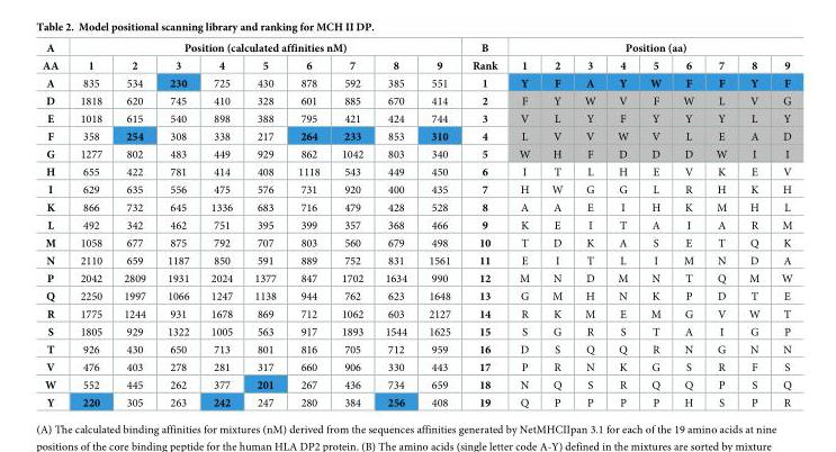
<table><thead><tr><td rowspan="2">A AA</td><td colspan="9">Position (calculated affinities nM)</td><td rowspan="2">B Rank</td><td colspan="9">Position (aa)</td></tr><tr><td>1</td><td>2</td><td>3</td><td>4</td><td>5</td><td>6</td><td>7</td><td>8</td><td>9</td><td>1</td><td>2</td><td>3</td><td>4</td><td>5</td><td>6</td><td>7</td><td>8</td><td>9</td></tr></thead><tbody><tr><td>A</td><td>835</td><td>534</td><td>230</td><td>725</td><td>430</td><td>878</td><td>592</td><td>385</td><td>551</td><td>1</td><td>Y</td><td>F</td><td>A</td><td>Y</td><td>W</td><td>F</td><td>F</td><td>Y</td><td>F</td></tr><tr><td>D</td><td>1818</td><td>620</td><td>745</td><td>410</td><td>328</td><td>601</td><td>885</td><td>670</td><td>414</td><td>2</td><td>F</td><td>Y</td><td>W</td><td>V</td><td>F</td><td>W</td><td>L</td><td>V</td><td>G</td></tr><tr><td>E</td><td>1018</td><td>615</td><td>540</td><td>898</td><td>388</td><td>795</td><td>421</td><td>424</td><td>744</td><td>3</td><td>V</td><td>L</td><td>Y</td><td>F</td><td>Y</td><td>Y</td><td>Y</td><td>L</td><td>Y</td></tr><tr><td>F</td><td>358</td><td>254</td><td>308</td><td>338</td><td>217</td><td>264</td><td>233</td><td>853</td><td>310</td><td>4</td><td>L</td><td>V</td><td>V</td><td>W</td><td>V</td><td>L</td><td>E</td><td>A</td><td>D</td></tr><tr><td>G</td><td>1277</td><td>802</td><td>483</td><td>449</td><td>929</td><td>862</td><td>1042</td><td>803</td><td>340</td><td>5</td><td>W</td><td>H</td><td>F</td><td>D</td><td>D</td><td>D</td><td>W</td><td>I</td><td>I</td></tr><tr><td>H</td><td>655</td><td>422</td><td>781</td><td>414</td><td>408</td><td>1118</td><td>543</td><td>449</td><td>450</td><td>6</td><td>I</td><td>T</td><td>L</td><td>H</td><td>E</td><td>V</td><td>K</td><td>E</td><td>V</td></tr><tr><td>I</td><td>629</td><td>635</td><td>556</td><td>475</td><td>576</td><td>731</td><td>920</td><td>400</td><td>435</td><td>7</td><td>H</td><td>W</td><td>G</td><td>G</td><td>L</td><td>R</td><td>H</td><td>K</td><td>H</td></tr><tr><td>K</td><td>866</td><td>732</td><td>645</td><td>1336</td><td>683</td><td>716</td><td>479</td><td>428</td><td>528</td><td>8</td><td>A</td><td>A</td><td>E</td><td>I</td><td>H</td><td>K</td><td>M</td><td>H</td><td>L</td></tr><tr><td>L</td><td>492</td><td>342</td><td>462</td><td>751</td><td>395</td><td>399</td><td>357</td><td>368</td><td>466</td><td>9</td><td>K</td><td>E</td><td>I</td><td>T</td><td>A</td><td>I</td><td>A</td><td>R</td><td>M</td></tr><tr><td>M</td><td>1058</td><td>677</td><td>875</td><td>792</td><td>707</td><td>803</td><td>560</td><td>679</td><td>498</td><td>10</td><td>T</td><td>D</td><td>K</td><td>A</td><td>S</td><td>E</td><td>T</td><td>Q</td><td>K</td></tr><tr><td>N</td><td>2110</td><td>659</td><td>1187</td><td>850</td><td>591</td><td>889</td><td>752</td><td>831</td><td>1561</td><td>11</td><td>E</td><td>I</td><td>T</td><td>L</td><td>I</td><td>M</td><td>N</td><td>D</td><td>A</td></tr><tr><td>P</td><td>2042</td><td>2809</td><td>1931</td><td>2024</td><td>1377</td><td>847</td><td>1702</td><td>1634</td><td>990</td><td>12</td><td>M</td><td>N</td><td>D</td><td>M</td><td>N</td><td>T</td><td>Q</td><td>M</td><td>W</td></tr><tr><td>Q</td><td>2250</td><td>1997</td><td>1066</td><td>1247</td><td>1138</td><td>944</td><td>762</td><td>623</td><td>1648</td><td>13</td><td>G</td><td>M</td><td>H</td><td>N</td><td>K</td><td>P</td><td>D</td><td>T</td><td>E</td></tr><tr><td>R</td><td>1775</td><td>1244</td><td>931</td><td>1678</td><td>869</td><td>712</td><td>1062</td><td>603</td><td>2127</td><td>14</td><td>R</td><td>K</td><td>M</td><td>E</td><td>M</td><td>G</td><td>V</td><td>W</td><td>T</td></tr><tr><td>S</td><td>1805</td><td>929</td><td>1322</td><td>1005</td><td>563</td><td>917</td><td>1893</td><td>1544</td><td>1625</td><td>15</td><td>S</td><td>G</td><td>R</td><td>S</td><td>T</td><td>A</td><td>I</td><td>G</td><td>P</td></tr><tr><td>T</td><td>926</td><td>430</td><td>650</td><td>713</td><td>801</td><td>816</td><td>705</td><td>712</td><td>959</td><td>16</td><td>D</td><td>S</td><td>Q</td><td>Q</td><td>R</td><td>N</td><td>G</td><td>N</td><td>N</td></tr><tr><td>V</td><td>476</td><td>403</td><td>278</td><td>281</td><td>317</td><td>660</td><td>906</td><td>330</td><td>443</td><td>17</td><td>P</td><td>R</td><td>N</td><td>K</td><td>G</td><td>S</td><td>R</td><td>F</td><td>S</td></tr><tr><td>W</td><td>552</td><td>445</td><td>262</td><td>377</td><td>201</td><td>267</td><td>436</td><td>734</td><td>659</td><td>18</td><td>N</td><td>Q</td><td>S</td><td>R</td><td>Q</td><td>Q</td><td>P</td><td>S</td><td>Q</td></tr><tr><td>Y</td><td>220</td><td>305</td><td>263</td><td>242</td><td>247</td><td>280</td><td>384</td><td>256</td><td>408</td><td>19</td><td>Q</td><td>P</td><td>P</td><td>P</td><td>P</td><td>H</td><td>S</td><td>P</td><td>R</td></tr></tbody></table>